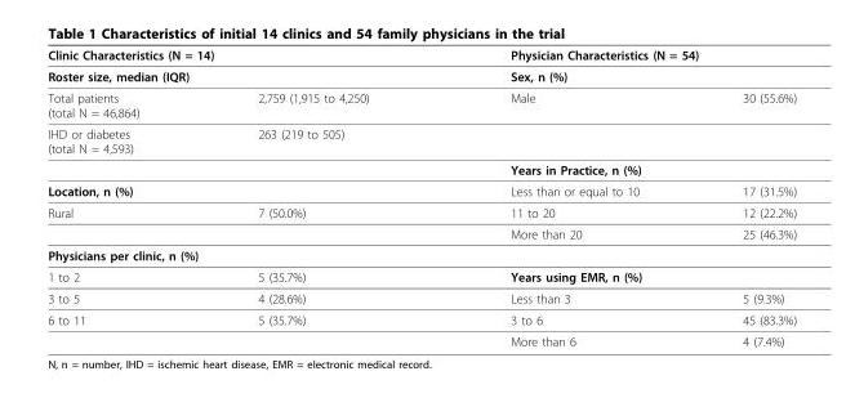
<table><thead><tr><td>Clinic Characteristics (N = 14)</td><td></td><td>Physician Characteristics (N = 54)</td><td></td></tr></thead><tbody><tr><td>Roster size, median (IQR)</td><td></td><td>Sex, n (%)</td><td></td></tr><tr><td>Total patients (total N = 46,864)</td><td>2,759 (1,915 to 4,250)</td><td>Male</td><td>30 (55.6%)</td></tr><tr><td rowspan="2">IHD or diabetes (total N = 4,593)</td><td>263 (219 to 505)</td><td></td><td></td></tr><tr><td></td><td>Years in Practice, n (%)</td><td></td></tr><tr><td>Location, n (%)</td><td></td><td>Less than or equal to 10</td><td>17 (31.5%)</td></tr><tr><td rowspan="2">Rural</td><td>7 (50.0%)</td><td>11 to 20</td><td>12 (22.2%)</td></tr><tr><td></td><td>More than 20</td><td>25 (46.3%)</td></tr><tr><td colspan="4">Physicians per clinic, n (%)</td></tr><tr><td>1 to 2</td><td>5 (35.7%)</td><td>Years using EMR, n (%)</td><td></td></tr><tr><td>3 to 5</td><td>4 (28.6%)</td><td>Less than 3</td><td>5 (9.3%)</td></tr><tr><td rowspan="2">6 to 11</td><td>5 (35.7%)</td><td>3 to 6</td><td>45 (83.3%)</td></tr><tr><td></td><td>More than 6</td><td>4 (7.4%)</td></tr></tbody></table>